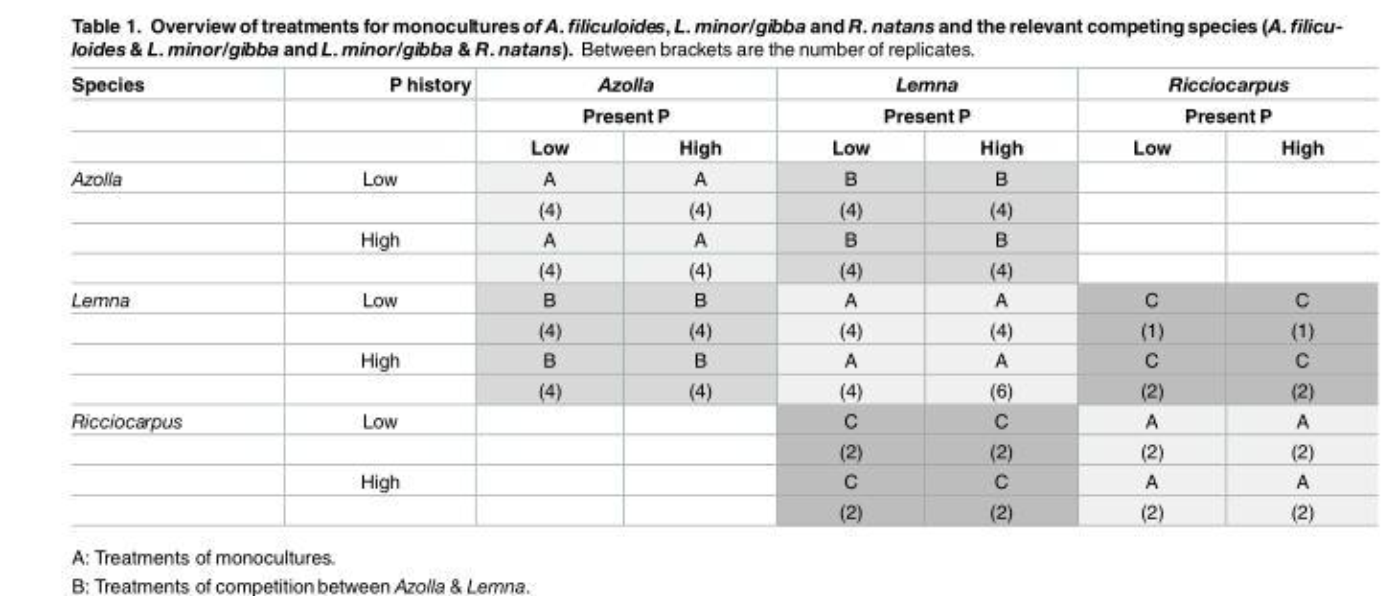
<table><thead><tr><td rowspan="3">Species</td><td rowspan="3">P history</td><td rowspan="2" colspan="2">Azolla Present P</td><td rowspan="2" colspan="2">Lemna Present P</td><td rowspan="2" colspan="2">Ricciocarpus Present P</td></tr><tr></tr><tr><td>Low</td><td>High</td><td>Low</td><td>High</td><td>Low</td><td>High</td></tr></thead><tbody><tr><td rowspan="4">Azolla</td><td>Low</td><td>A</td><td>A</td><td>B</td><td>B</td><td></td><td></td></tr><tr><td></td><td>(4)</td><td>(4)</td><td>(4)</td><td>(4)</td><td></td><td></td></tr><tr><td>High</td><td>A</td><td>A</td><td>B</td><td>B</td><td></td><td></td></tr><tr><td></td><td>(4)</td><td>(4)</td><td>(4)</td><td>(4)</td><td></td><td></td></tr><tr><td rowspan="4">Lemna</td><td>Low</td><td>B</td><td>B</td><td>A</td><td>A</td><td>C</td><td>C</td></tr><tr><td></td><td>(4)</td><td>(4)</td><td>(4)</td><td>(4)</td><td>(1)</td><td>(1)</td></tr><tr><td>High</td><td>B</td><td>B</td><td>A</td><td>A</td><td>C</td><td>C</td></tr><tr><td></td><td>(4)</td><td>(4)</td><td>(4)</td><td>(6)</td><td>(2)</td><td>(2)</td></tr><tr><td rowspan="4">Ricciocarpus</td><td>Low</td><td></td><td></td><td>C</td><td>C</td><td>A</td><td>A</td></tr><tr><td></td><td></td><td></td><td>(2)</td><td>(2)</td><td>(2)</td><td>(2)</td></tr><tr><td>High</td><td></td><td></td><td>C</td><td>C</td><td>A</td><td>A</td></tr><tr><td></td><td></td><td></td><td>(2)</td><td>(2)</td><td>(2)</td><td>(2)</td></tr></tbody></table>